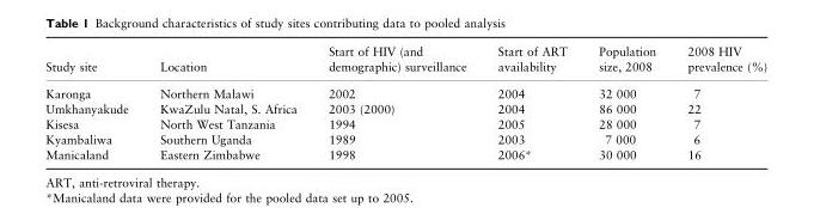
<table><thead><tr><td>Study site</td><td>Location</td><td>Start of HIV (and demographic) surveillance</td><td>Start of ART availability</td><td>Population size, 2008</td><td>2008 HIV prevalence (%)</td></tr></thead><tbody><tr><td>Karonga</td><td>Northern Malawi</td><td>2002</td><td>2004</td><td>32 000</td><td>7</td></tr><tr><td>Umkhanyakude</td><td>KwaZulu Natal, S. Africa</td><td>2003 (2000)</td><td>2004</td><td>86 000</td><td>22</td></tr><tr><td>Kisesa</td><td>North West Tanzania</td><td>1994</td><td>2005</td><td>28 000</td><td>7</td></tr><tr><td>Kyambaliwa</td><td>Southern Uganda</td><td>1989</td><td>2003</td><td>7 000</td><td>6</td></tr><tr><td>Manicaland</td><td>Eastern Zimbabwe</td><td>1998</td><td>2006*</td><td>30 000</td><td>16</td></tr></tbody></table>